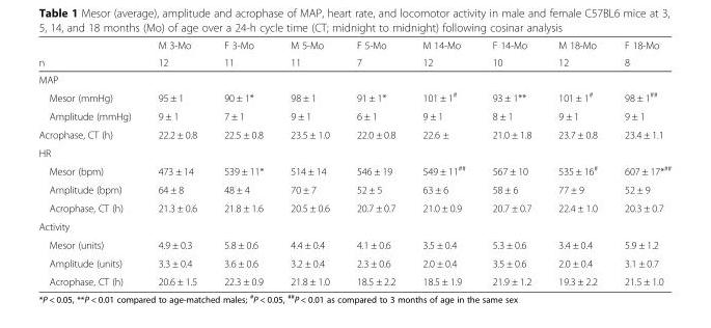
<table><thead><tr><td rowspan="2">n</td><td rowspan="2">M 3-Mo 12</td><td rowspan="2">F 3-Mo 11</td><td rowspan="2">M 5-Mo 11</td><td rowspan="2">F 5-Mo 7</td><td rowspan="2">M 14-Mo 12</td><td rowspan="2">F 14-Mo 10</td><td rowspan="2">M 18-Mo 12</td><td rowspan="2">F 18-Mo 8</td></tr><tr></tr></thead><tbody><tr><td colspan="9">MAP</td></tr><tr><td>Mesor (mmHg)</td><td>95 ± 1</td><td>90 ± 1*</td><td>98 ± 1</td><td>91 ± 1*</td><td>101 ± 1<sup>#</sup></td><td>93 ± 1**</td><td>101 ± 1<sup>#</sup></td><td>98 ± 1<sup>##</sup></td></tr><tr><td>Amplitude (mmHg)</td><td>9 ± 1</td><td>7 ± 1</td><td>9 ± 1</td><td>6 ± 1</td><td>9 ± 1</td><td>8 ± 1</td><td>9 ± 1</td><td>9 ± 1</td></tr><tr><td>Acrophase, CT (h)</td><td>22.2 ± 0.8</td><td>22.5 ± 0.8</td><td>23.5 ± 1.0</td><td>22.0 ± 0.8</td><td>22.6 ±</td><td>21.0 ± 1.8</td><td>23.7 ± 0.8</td><td>23.4 ± 1.1</td></tr><tr><td colspan="9">HR</td></tr><tr><td>Mesor (bpm)</td><td>473 ± 14</td><td>539 ± 11*</td><td>514 ± 14</td><td>546 ± 19</td><td>549 ± 11<sup>##</sup></td><td>567 ± 10</td><td>535 ± 16<sup>#</sup></td><td>607 ± 17*<sup>##</sup></td></tr><tr><td>Amplitude (bpm)</td><td>64 ± 8</td><td>48 ± 4</td><td>70 ± 7</td><td>52 ± 5</td><td>63 ± 6</td><td>58 ± 6</td><td>77 ± 9</td><td>52 ± 9</td></tr><tr><td>Acrophase, CT (h)</td><td>21.3 ± 0.6</td><td>21.8 ± 1.6</td><td>20.5 ± 0.6</td><td>20.7 ± 0.7</td><td>21.0 ± 0.9</td><td>20.7 ± 0.7</td><td>22.4 ± 1.0</td><td>20.3 ± 0.7</td></tr><tr><td colspan="9">Activity</td></tr><tr><td>Mesor (units)</td><td>4.9 ± 0.3</td><td>5.8 ± 0.6</td><td>4.4 ± 0.4</td><td>4.1 ± 0.6</td><td>3.5 ± 0.4</td><td>5.3 ± 0.6</td><td>3.4 ± 0.4</td><td>5.9 ± 1.2</td></tr><tr><td>Amplitude (units)</td><td>3.3 ± 0.4</td><td>3.6 ± 0.6</td><td>3.2 ± 0.4</td><td>2.3 ± 0.6</td><td>2.0 ± 0.4</td><td>3.5 ± 0.6</td><td>2.0 ± 0.4</td><td>3.1 ± 0.7</td></tr><tr><td>Acrophase, CT (h)</td><td>20.6 ± 1.5</td><td>22.3 ± 0.9</td><td>21.8 ± 1.0</td><td>18.5 ± 2.2</td><td>18.5 ± 1.9</td><td>21.9 ± 1.2</td><td>19.3 ± 2.2</td><td>21.5 ± 1.0</td></tr></tbody></table>